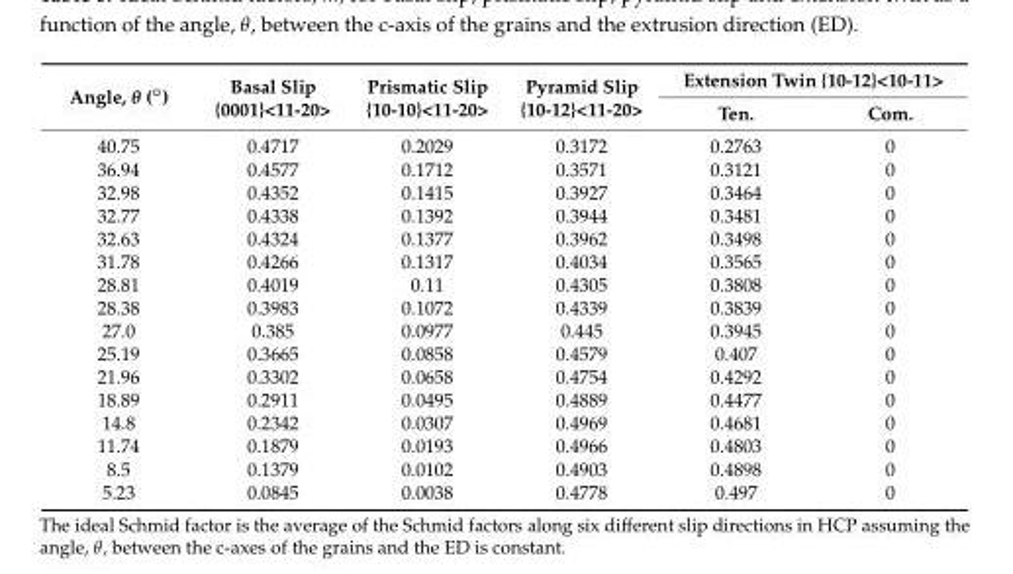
<table><thead><tr><td rowspan="2">Angle, θ (◦)</td><td rowspan="2">Basal Slip {0001}&lt;11-20&gt;</td><td rowspan="2">Prismatic Slip {10-10}&lt;11-20&gt;</td><td rowspan="2">Pyramid Slip {10-12}&lt;11-20&gt;</td><td colspan="2">Extension Twin {10-12}&lt;10-11&gt;</td></tr><tr><td>Ten.</td><td>Com.</td></tr></thead><tbody><tr><td>40.75</td><td>0.4717</td><td>0.2029</td><td>0.3172</td><td>0.2763</td><td>0</td></tr><tr><td>36.94</td><td>0.4577</td><td>0.1712</td><td>0.3571</td><td>0.3121</td><td>0</td></tr><tr><td>32.98</td><td>0.4352</td><td>0.1415</td><td>0.3927</td><td>0.3464</td><td>0</td></tr><tr><td>32.77</td><td>0.4338</td><td>0.1392</td><td>0.3944</td><td>0.3481</td><td>0</td></tr><tr><td>32.63</td><td>0.4324</td><td>0.1377</td><td>0.3962</td><td>0.3498</td><td>0</td></tr><tr><td>31.78</td><td>0.4266</td><td>0.1317</td><td>0.4034</td><td>0.3565</td><td>0</td></tr><tr><td>28.81</td><td>0.4019</td><td>0.11</td><td>0.4305</td><td>0.3808</td><td>0</td></tr><tr><td>28.38</td><td>0.3983</td><td>0.1072</td><td>0.4339</td><td>0.3839</td><td>0</td></tr><tr><td>27.0</td><td>0.385</td><td>0.0977</td><td>0.445</td><td>0.3945</td><td>0</td></tr><tr><td>25.19</td><td>0.3665</td><td>0.0858</td><td>0.4579</td><td>0.407</td><td>0</td></tr><tr><td>21.96</td><td>0.3302</td><td>0.0658</td><td>0.4754</td><td>0.4292</td><td>0</td></tr><tr><td>18.89</td><td>0.2911</td><td>0.0495</td><td>0.4889</td><td>0.4477</td><td>0</td></tr><tr><td>14.8</td><td>0.2342</td><td>0.0307</td><td>0.4969</td><td>0.4681</td><td>0</td></tr><tr><td>11.74</td><td>0.1879</td><td>0.0193</td><td>0.4966</td><td>0.4803</td><td>0</td></tr><tr><td>8.5</td><td>0.1379</td><td>0.0102</td><td>0.4903</td><td>0.4898</td><td>0</td></tr><tr><td>5.23</td><td>0.0845</td><td>0.0038</td><td>0.4778</td><td>0.497</td><td>0</td></tr></tbody></table>